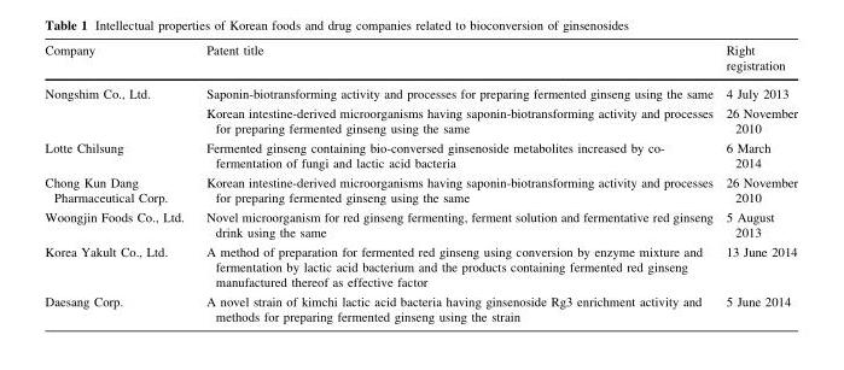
<table><thead><tr><td>Company</td><td>Patent title</td><td>Right registration</td></tr></thead><tbody><tr><td rowspan="2">Nongshim Co., Ltd.</td><td>Saponin-biotransforming activity and processes for preparing fermented ginseng using the same</td><td>4 July 2013</td></tr><tr><td>Korean intestine-derived microorganisms having saponin-biotransforming activity and processes for preparing fermented ginseng using the same</td><td>26 November 2010</td></tr><tr><td>Lotte Chilsung</td><td>Fermented ginseng containing bio-conversed ginsenoside metabolites increased by co- fermentation of fungi and lactic acid bacteria</td><td>6 March 2014</td></tr><tr><td>Chong Kun Dang Pharmaceutical Corp.</td><td>Korean intestine-derived microorganisms having saponin-biotransforming activity and processes for preparing fermented ginseng using the same</td><td>26 November 2010</td></tr><tr><td>Woongjin Foods Co., Ltd.</td><td>Novel microorganism for red ginseng fermenting, ferment solution and fermentative red ginseng drink using the same</td><td>5 August 2013</td></tr><tr><td>Korea Yakult Co., Ltd.</td><td>A method of preparation for fermented red ginseng using conversion by enzyme mixture and fermentation by lactic acid bacterium and the products containing fermented red ginseng manufactured thereof as effective factor</td><td>13 June 2014</td></tr><tr><td>Daesang Corp.</td><td>A novel strain of kimchi lactic acid bacteria having ginsenoside Rg3 enrichment activity and methods for preparing fermented ginseng using the strain</td><td>5 June 2014</td></tr></tbody></table>